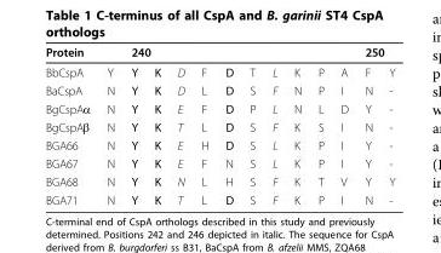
<table><thead><tr><td rowspan="2">Protein BbCspA</td><td rowspan="2">Y</td><td colspan="2">240</td><td rowspan="2">D</td><td rowspan="2">F</td><td rowspan="2">D</td><td rowspan="2">T</td><td rowspan="2">L</td><td rowspan="2">K</td><td rowspan="2">P</td><td rowspan="2">A</td><td colspan="2">250</td></tr><tr><td>Y</td><td>K</td><td>F</td><td>Y</td></tr></thead><tbody><tr><td>BaCspA</td><td>N</td><td>Y</td><td>K</td><td>D</td><td>L</td><td>D</td><td>S</td><td>F</td><td>N</td><td>P</td><td>I</td><td>N</td><td>-</td></tr><tr><td>BgCspAα</td><td>N</td><td>Y</td><td>K</td><td>E</td><td>F</td><td>D</td><td>P</td><td>L</td><td>N</td><td>L</td><td>D</td><td>Y</td><td>-</td></tr><tr><td>BgCspAβ</td><td>N</td><td>Y</td><td>K</td><td>T</td><td>L</td><td>D</td><td>S</td><td>F</td><td>K</td><td>S</td><td>I</td><td>N</td><td>-</td></tr><tr><td>BGA66</td><td>N</td><td>Y</td><td>K</td><td>E</td><td>H</td><td>D</td><td>S</td><td>L</td><td>K</td><td>P</td><td>I</td><td>Y</td><td>-</td></tr><tr><td>BGA67</td><td>N</td><td>Y</td><td>K</td><td>E</td><td>F</td><td>N</td><td>S</td><td>L</td><td>K</td><td>P</td><td>I</td><td>Y</td><td>-</td></tr><tr><td>BGA68</td><td>N</td><td>Y</td><td>K</td><td>N</td><td>L</td><td>H</td><td>S</td><td>F</td><td>K</td><td>T</td><td>V</td><td>Y</td><td>Y</td></tr><tr><td>BGA71</td><td>N</td><td>Y</td><td>K</td><td>T</td><td>L</td><td>D</td><td>S</td><td>F</td><td>K</td><td>P</td><td>I</td><td>N</td><td>-</td></tr></tbody></table>